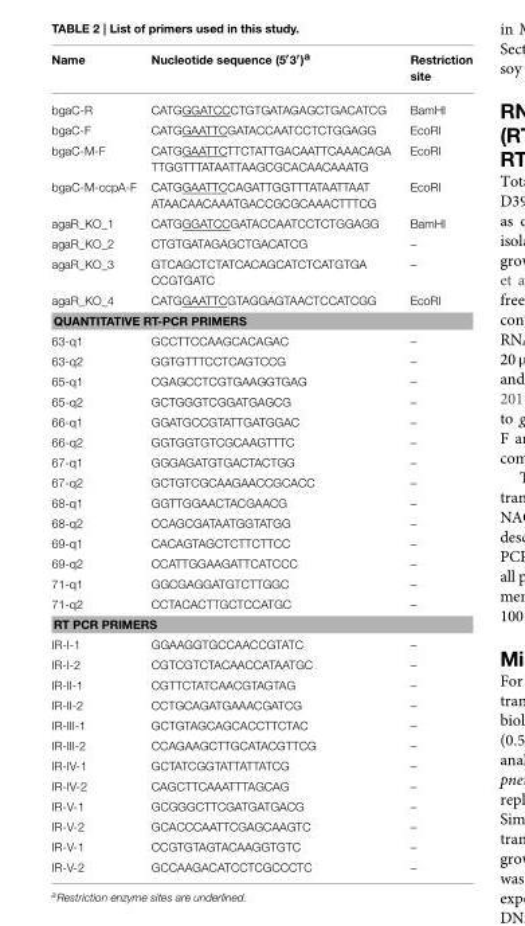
<table><thead><tr><td>Name</td><td>Nucleotide sequence (5′3′)<sup>a</sup></td><td>Restriction site</td></tr></thead><tbody><tr><td>bgaC-R</td><td>CATGGGATCCCTGTGATAGAGCTGACATCG</td><td>BamHI</td></tr><tr><td>bgaC-F</td><td>CATGGAATTCGATACCAATCCTCTGGAGG</td><td>EcoRI</td></tr><tr><td>bgaC-M-F</td><td>CATGGAATTCTTCTATTGACAATTCAAACAGA TTGGTTTATAATTAAGCGCACAACAAATG</td><td>EcoRI</td></tr><tr><td>bgaC-M-ccpA-F</td><td>CATGGAATTCCAGATTGGTTTATAATTAAT ATAACAACAAATGACCGCGCAAACTTTCG</td><td>EcoRI</td></tr><tr><td>agaR_KO_1</td><td>CATGGGATCCGATACCAATCCTCTGGAGG</td><td>BamHI</td></tr><tr><td>agaR_KO_2</td><td>CTGTGATAGAGCTGACATCG</td><td>–</td></tr><tr><td>agaR_KO_3</td><td>GTCAGCTCTATCACAGCATCTCATGTGA CCGTGATC</td><td>–</td></tr><tr><td>agaR_KO_4</td><td>CATGGAATTCGTAGGAGTAACTCCATCGG</td><td>EcoRI</td></tr><tr><td colspan="3">QUANTITATIVE RT-PCR PRIMERS</td></tr><tr><td>63-q1</td><td>GCCTTCCAAGCACAGAC</td><td>–</td></tr><tr><td>63-q2</td><td>GGTGTTTCCTCAGTCCG</td><td>–</td></tr><tr><td>65-q1</td><td>CGAGCCTCGTGAAGGTGAG</td><td>–</td></tr><tr><td>65-q2</td><td>GCTGGGTCGGATGAGCG</td><td>–</td></tr><tr><td>66-q1</td><td>GGATGCCGTATTGATGGAC</td><td>–</td></tr><tr><td>66-q2</td><td>GGTGGTGTCGCAAGTTTC</td><td>–</td></tr><tr><td>67-q1</td><td>GGGAGATGTGACTACTGG</td><td>–</td></tr><tr><td>67-q2</td><td>GCTGTCGCAAGAACCGCACC</td><td>–</td></tr><tr><td>68-q1</td><td>GGTTGGAACTACGAACG</td><td>–</td></tr><tr><td>68-q2</td><td>CCAGCGATAATGGTATGG</td><td>–</td></tr><tr><td>69-q1</td><td>CACAGTAGCTCTTCTTCC</td><td>–</td></tr><tr><td>69-q2</td><td>CCATTGGAAGATTCATCCC</td><td>–</td></tr><tr><td>71-q1</td><td>GGCGAGGATGTCTTGGC</td><td>–</td></tr><tr><td>71-q2</td><td>CCTACACTTGCTCCATGC</td><td>–</td></tr><tr><td colspan="3">RT PCR PRIMERS</td></tr><tr><td>IR-I-1</td><td>GGAAGGTGCCAACCGTATC</td><td>–</td></tr><tr><td>IR-I-2</td><td>CGTCGTCTACAACCATAATGC</td><td>–</td></tr><tr><td>IR-II-1</td><td>CGTTCTATCAACGTAGTAG</td><td>–</td></tr><tr><td>IR-II-2</td><td>CCTGCAGATGAAACGATCG</td><td>–</td></tr><tr><td>IR-III-1</td><td>GCTGTAGCAGCACCTTCTAC</td><td>–</td></tr><tr><td>IR-III-2</td><td>CCAGAAGCTTGCATACGTTCG</td><td>–</td></tr><tr><td>IR-IV-1</td><td>GCTATCGGTATTATTATCG</td><td>–</td></tr><tr><td>IR-IV-2</td><td>CAGCTTCAAATTTAGCAG</td><td>–</td></tr><tr><td>IR-V-1</td><td>GCGGGCTTCGATGATGACG</td><td>–</td></tr><tr><td>IR-V-2</td><td>GCACCCAATTCGAGCAAGTC</td><td>–</td></tr><tr><td>IR-V-1</td><td>CCGTGTAGTACAAGGTGTC</td><td>–</td></tr><tr><td>IR-V-2</td><td>GCCAAGACATCCTCGCCCTC</td><td>–</td></tr></tbody></table>